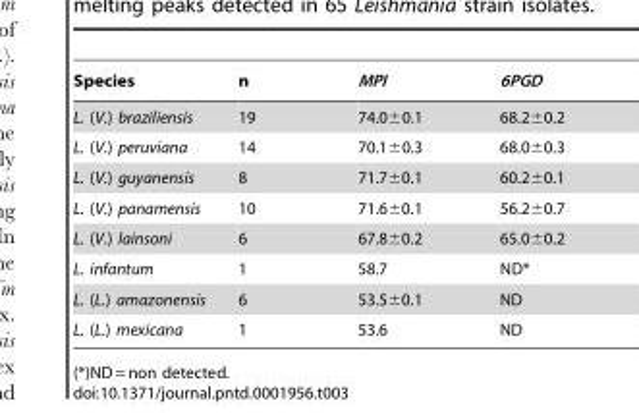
<table><thead><tr><td>Species</td><td>n</td><td>MPI</td><td>6PGD</td></tr></thead><tbody><tr><td>L. (V.) braziliensis</td><td>19</td><td>74.0±0.1</td><td>68.2±0.2</td></tr><tr><td>L. (V.) peruviana</td><td>14</td><td>70.1±0.3</td><td>68.0±0.3</td></tr><tr><td>L. (V.) guyanensis</td><td>8</td><td>71.7±0.1</td><td>60.2±0.1</td></tr><tr><td>L. (V.) panamensis</td><td>10</td><td>71.6±0.1</td><td>56.2±0.7</td></tr><tr><td>L. (V.) lainsoni</td><td>6</td><td>67.8±0.2</td><td>65.0±0.2</td></tr><tr><td>L. infantum</td><td>1</td><td>58.7</td><td>ND*</td></tr><tr><td>L. (L.) amazonensis</td><td>6</td><td>53.5±0.1</td><td>ND</td></tr><tr><td>L. (L.) mexicana</td><td>1</td><td>53.6</td><td>ND</td></tr></tbody></table>